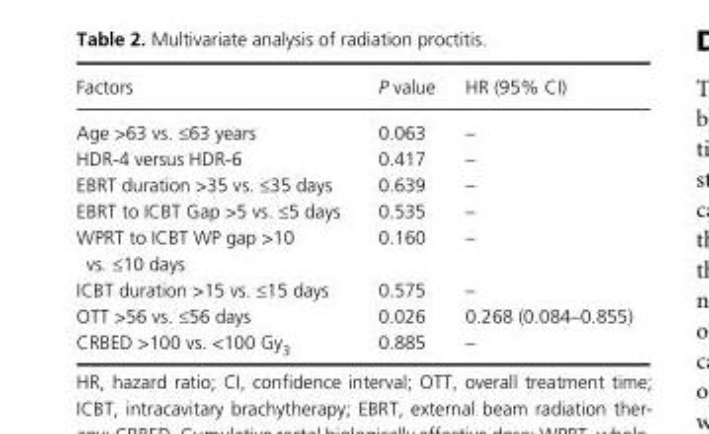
<table><thead><tr><td>Factors</td><td>P value</td><td>HR (95% CI)</td></tr></thead><tbody><tr><td>Age &gt;63 vs. ≤63 years</td><td>0.063</td><td>–</td></tr><tr><td>HDR- 4 versus HDR- 6</td><td>0.417</td><td>–</td></tr><tr><td>EBRT duration &gt;35 vs. ≤35 days</td><td>0.639</td><td>–</td></tr><tr><td>EBRT to ICBT Gap &gt;5 vs. ≤5 days</td><td>0.535</td><td>–</td></tr><tr><td>WPRT to ICBT WP gap &gt;10 vs. ≤10 days</td><td>0.160</td><td>–</td></tr><tr><td>ICBT duration &gt;15 vs. ≤15 days</td><td>0.575</td><td>–</td></tr><tr><td>OTT &gt;56 vs. ≤56 days</td><td>0.026</td><td>0.268 (0.084–0.855)</td></tr><tr><td>CRBED &gt;100 vs. &lt;100 Gy<sub>3</sub></td><td>0.885</td><td>–</td></tr></tbody></table>